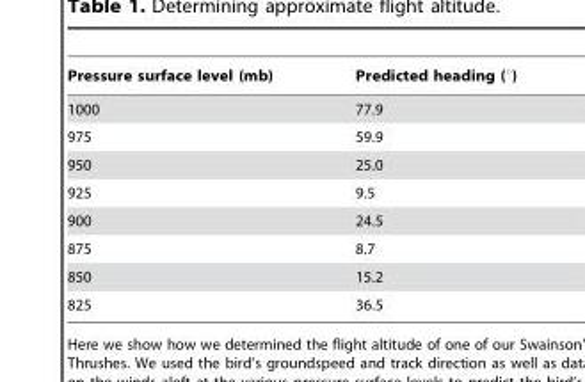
<table><thead><tr><td>Pressure surface level (mb)</td><td>Predicted heading (°)</td></tr></thead><tbody><tr><td>1000</td><td>77.9</td></tr><tr><td>975</td><td>59.9</td></tr><tr><td>950</td><td>25.0</td></tr><tr><td>925</td><td>9.5</td></tr><tr><td>900</td><td>24.5</td></tr><tr><td>875</td><td>8.7</td></tr><tr><td>850</td><td>15.2</td></tr><tr><td>825</td><td>36.5</td></tr></tbody></table>